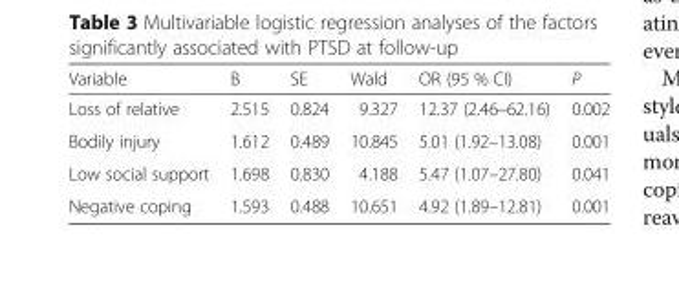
<table><thead><tr><td>Variable</td><td>B</td><td>SE</td><td>Wald</td><td>OR (95 % CI)</td><td>P</td></tr></thead><tbody><tr><td>Loss of relative</td><td>2.515</td><td>0.824</td><td>9.327</td><td>12.37 (2.46–62.16)</td><td>0.002</td></tr><tr><td>Bodily injury</td><td>1.612</td><td>0.489</td><td>10.845</td><td>5.01 (1.92–13.08)</td><td>0.001</td></tr><tr><td>Low social support</td><td>1.698</td><td>0.830</td><td>4.188</td><td>5.47 (1.07–27.80)</td><td>0.041</td></tr><tr><td>Negative coping</td><td>1.593</td><td>0.488</td><td>10.651</td><td>4.92 (1.89–12.81)</td><td>0.001</td></tr></tbody></table>